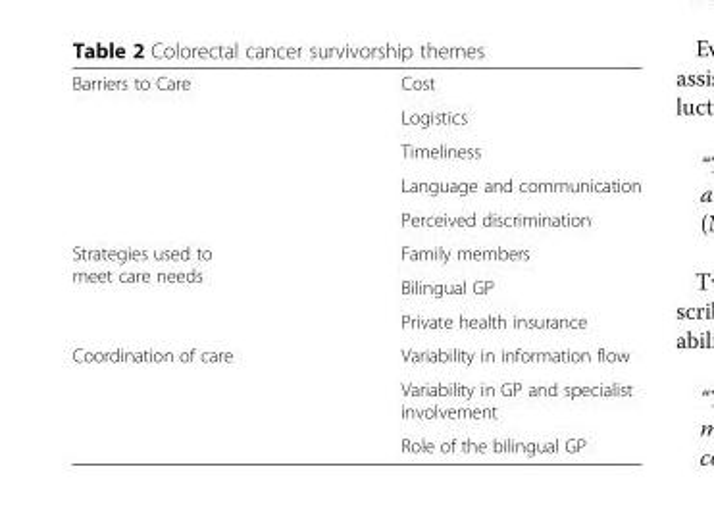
<table><tbody><tr><td rowspan="5">Barriers to Care</td><td>Cost</td></tr><tr><td>Logistics</td></tr><tr><td>Timeliness</td></tr><tr><td>Language and communication</td></tr><tr><td>Perceived discrimination</td></tr><tr><td rowspan="3">Strategies used to meet care needs</td><td>Family members</td></tr><tr><td>Bilingual GP</td></tr><tr><td>Private health insurance</td></tr><tr><td rowspan="3">Coordination of care</td><td>Variability in information flow</td></tr><tr><td>Variability in GP and specialist involvement</td></tr><tr><td>Role of the bilingual GP</td></tr></tbody></table>